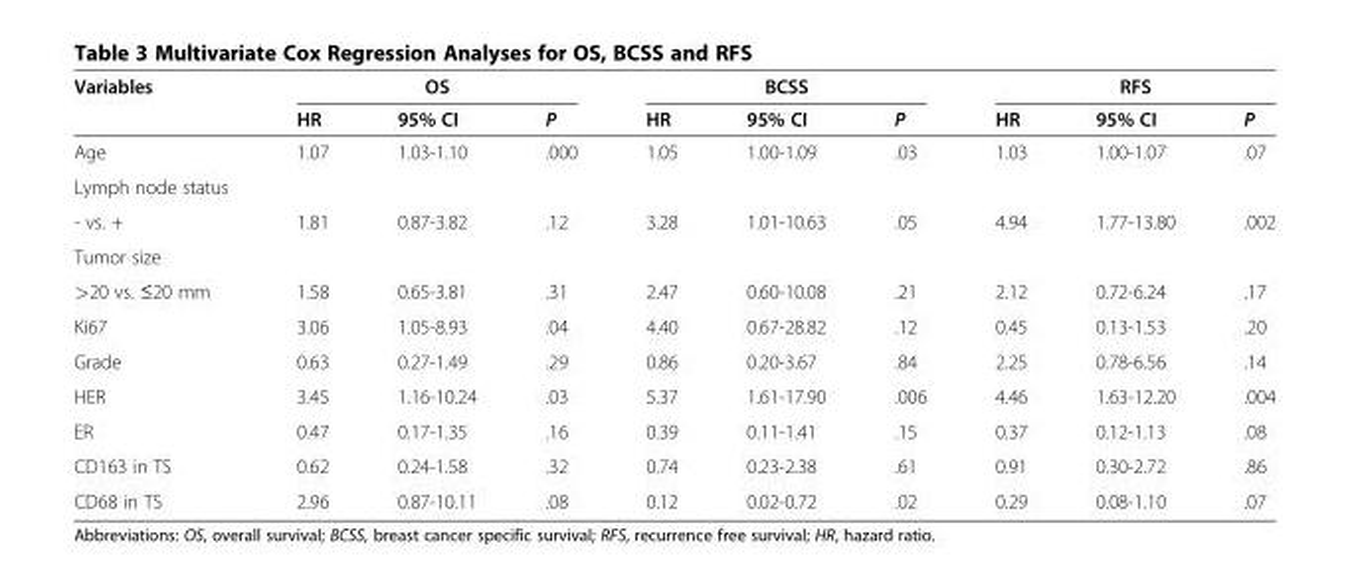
<table><thead><tr><td rowspan="2">Variables</td><td colspan="3">OS</td><td colspan="3">BCSS</td><td colspan="3">RFS</td></tr><tr><td>HR</td><td>95% CI</td><td>P</td><td>HR</td><td>95% CI</td><td>P</td><td>HR</td><td>95% CI</td><td>P</td></tr></thead><tbody><tr><td>Age</td><td>1.07</td><td>1.03-1.10</td><td>.000</td><td>1.05</td><td>1.00-1.09</td><td>.03</td><td>1.03</td><td>1.00-1.07</td><td>.07</td></tr><tr><td colspan="10">Lymph node status</td></tr><tr><td>- vs. +</td><td>1.81</td><td>0.87-3.82</td><td>.12</td><td>3.28</td><td>1.01-10.63</td><td>.05</td><td>4.94</td><td>1.77-13.80</td><td>.002</td></tr><tr><td colspan="10">Tumor size</td></tr><tr><td>&gt;20 vs. ≤20 mm</td><td>1.58</td><td>0.65-3.81</td><td>.31</td><td>2.47</td><td>0.60-10.08</td><td>.21</td><td>2.12</td><td>0.72-6.24</td><td>.17</td></tr><tr><td>Ki67</td><td>3.06</td><td>1.05-8.93</td><td>.04</td><td>4.40</td><td>0.67-28.82</td><td>.12</td><td>0.45</td><td>0.13-1.53</td><td>.20</td></tr><tr><td>Grade</td><td>0.63</td><td>0.27-1.49</td><td>.29</td><td>0.86</td><td>0.20-3.67</td><td>.84</td><td>2.25</td><td>0.78-6.56</td><td>.14</td></tr><tr><td>HER</td><td>3.45</td><td>1.16-10.24</td><td>.03</td><td>5.37</td><td>1.61-17.90</td><td>.006</td><td>4.46</td><td>1.63-12.20</td><td>.004</td></tr><tr><td>ER</td><td>0.47</td><td>0.17-1.35</td><td>.16</td><td>0.39</td><td>0.11-1.41</td><td>.15</td><td>0.37</td><td>0.12-1.13</td><td>.08</td></tr><tr><td>CD163 in TS</td><td>0.62</td><td>0.24-1.58</td><td>.32</td><td>0.74</td><td>0.23-2.38</td><td>.61</td><td>0.91</td><td>0.30-2.72</td><td>.86</td></tr><tr><td>CD68 in TS</td><td>2.96</td><td>0.87-10.11</td><td>.08</td><td>0.12</td><td>0.02-0.72</td><td>.02</td><td>0.29</td><td>0.08-1.10</td><td>.07</td></tr></tbody></table>